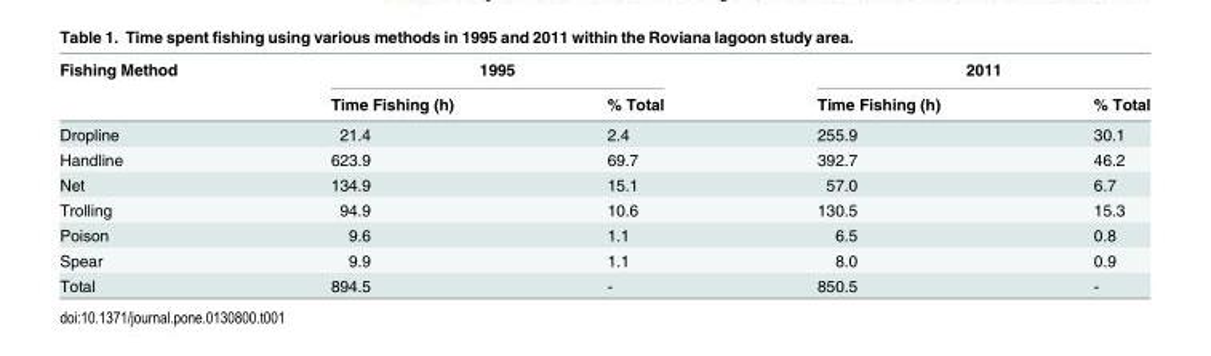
<table><thead><tr><td rowspan="2">Fishing Method</td><td colspan="2">1995</td><td colspan="2">2011</td></tr><tr><td>Time Fishing (h)</td><td>% Total</td><td>Time Fishing (h)</td><td>% Total</td></tr></thead><tbody><tr><td>Dropline</td><td>21.4</td><td>2.4</td><td>255.9</td><td>30.1</td></tr><tr><td>Handline</td><td>623.9</td><td>69.7</td><td>392.7</td><td>46.2</td></tr><tr><td>Net</td><td>134.9</td><td>15.1</td><td>57.0</td><td>6.7</td></tr><tr><td>Trolling</td><td>94.9</td><td>10.6</td><td>130.5</td><td>15.3</td></tr><tr><td>Poison</td><td>9.6</td><td>1.1</td><td>6.5</td><td>0.8</td></tr><tr><td>Spear</td><td>9.9</td><td>1.1</td><td>8.0</td><td>0.9</td></tr><tr><td>Total</td><td>894.5</td><td>-</td><td>850.5</td><td>-</td></tr></tbody></table>